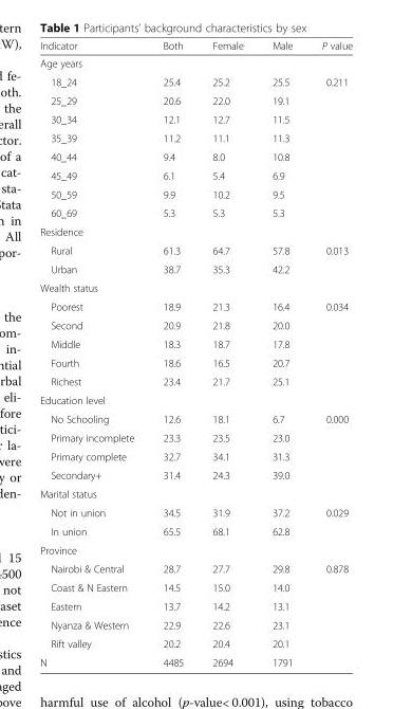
<table><thead><tr><td>Indicator</td><td>Both</td><td>Female</td><td>Male</td><td>P value</td></tr></thead><tbody><tr><td colspan="5">Age years</td></tr><tr><td>18_24</td><td>25.4</td><td>25.2</td><td>25.5</td><td>0.211</td></tr><tr><td>25_29</td><td>20.6</td><td>22.0</td><td>19.1</td><td></td></tr><tr><td>30_34</td><td>12.1</td><td>12.7</td><td>11.5</td><td></td></tr><tr><td>35_39</td><td>11.2</td><td>11.1</td><td>11.3</td><td></td></tr><tr><td>40_44</td><td>9.4</td><td>8.0</td><td>10.8</td><td></td></tr><tr><td>45_49</td><td>6.1</td><td>5.4</td><td>6.9</td><td></td></tr><tr><td>50_59</td><td>9.9</td><td>10.2</td><td>9.5</td><td></td></tr><tr><td>60_69</td><td>5.3</td><td>5.3</td><td>5.3</td><td></td></tr><tr><td colspan="5">Residence</td></tr><tr><td>Rural</td><td>61.3</td><td>64.7</td><td>57.8</td><td>0.013</td></tr><tr><td>Urban</td><td>38.7</td><td>35.3</td><td>42.2</td><td></td></tr><tr><td colspan="5">Wealth status</td></tr><tr><td>Poorest</td><td>18.9</td><td>21.3</td><td>16.4</td><td>0.034</td></tr><tr><td>Second</td><td>20.9</td><td>21.8</td><td>20.0</td><td></td></tr><tr><td>Middle</td><td>18.3</td><td>18.7</td><td>17.8</td><td></td></tr><tr><td>Fourth</td><td>18.6</td><td>16.5</td><td>20.7</td><td></td></tr><tr><td>Richest</td><td>23.4</td><td>21.7</td><td>25.1</td><td></td></tr><tr><td colspan="5">Education level</td></tr><tr><td>No Schooling</td><td>12.6</td><td>18.1</td><td>6.7</td><td>0.000</td></tr><tr><td>Primary incomplete</td><td>23.3</td><td>23.5</td><td>23.0</td><td></td></tr><tr><td>Primary complete</td><td>32.7</td><td>34.1</td><td>31.3</td><td></td></tr><tr><td>Secondary+</td><td>31.4</td><td>24.3</td><td>39.0</td><td></td></tr><tr><td colspan="5">Marital status</td></tr><tr><td>Not in union</td><td>34.5</td><td>31.9</td><td>37.2</td><td>0.029</td></tr><tr><td>In union</td><td>65.5</td><td>68.1</td><td>62.8</td><td></td></tr><tr><td colspan="5">Province</td></tr><tr><td>Nairobi &amp; Central</td><td>28.7</td><td>27.7</td><td>29.8</td><td>0.878</td></tr><tr><td>Coast &amp; N Eastern</td><td>14.5</td><td>15.0</td><td>14.0</td><td></td></tr><tr><td>Eastern</td><td>13.7</td><td>14.2</td><td>13.1</td><td></td></tr><tr><td>Nyanza &amp; Western</td><td>22.9</td><td>22.6</td><td>23.1</td><td></td></tr><tr><td>Rift valley</td><td>20.2</td><td>20.4</td><td>20.1</td><td></td></tr><tr><td>N</td><td>4485</td><td>2694</td><td>1791</td><td></td></tr></tbody></table>